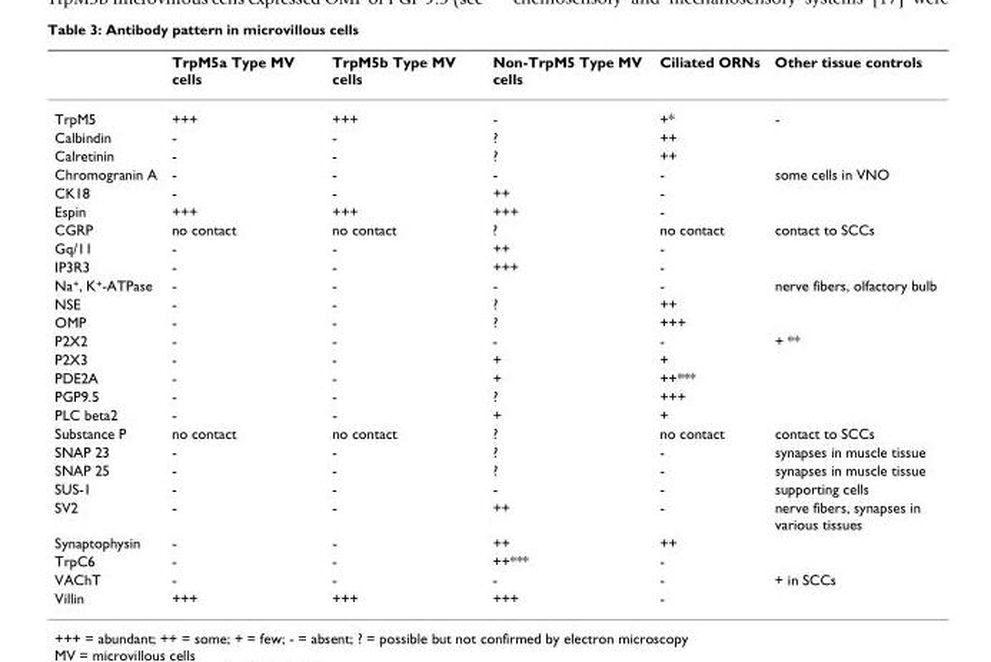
<table><thead><tr><td></td><td>TrpM5a Type MV cells</td><td>TrpM5b Type MV cells</td><td>Non-TrpM5 Type MV cells</td><td>Ciliated ORNs</td><td>Other tissue controls</td></tr></thead><tbody><tr><td>TrpM5</td><td>+++</td><td>+++</td><td>-</td><td>+*</td><td>-</td></tr><tr><td>Calbindin</td><td>-</td><td>-</td><td>?</td><td>++</td><td></td></tr><tr><td>Calretinin</td><td>-</td><td>-</td><td>?</td><td>++</td><td></td></tr><tr><td>Chromogranin A</td><td>-</td><td>-</td><td>-</td><td>-</td><td>some cells in VNO</td></tr><tr><td>CK18</td><td>-</td><td>-</td><td>++</td><td>-</td><td></td></tr><tr><td>Espin</td><td>+++</td><td>+++</td><td>+++</td><td>-</td><td></td></tr><tr><td>CGRP</td><td>no contact</td><td>no contact</td><td>?</td><td>no contact</td><td>contact to SCCs</td></tr><tr><td>Gq/11</td><td>-</td><td>-</td><td>++</td><td>-</td><td></td></tr><tr><td>IP3R3</td><td>-</td><td>-</td><td>+++</td><td>-</td><td></td></tr><tr><td>Na<sup>+</sup>, K<sup>+</sup>-ATPase</td><td>-</td><td>-</td><td>-</td><td>-</td><td>nerve fibers, olfactory bulb</td></tr><tr><td>NSE</td><td>-</td><td>-</td><td>?</td><td>++</td><td></td></tr><tr><td>OMP</td><td>-</td><td>-</td><td>?</td><td>+++</td><td></td></tr><tr><td>P2X2</td><td>-</td><td>-</td><td>-</td><td>-</td><td>+ **</td></tr><tr><td>P2X3</td><td>-</td><td>-</td><td>+</td><td>+</td><td></td></tr><tr><td>PDE2A</td><td>-</td><td>-</td><td>+</td><td>++***</td><td></td></tr><tr><td>PGP9.5</td><td>-</td><td>-</td><td>?</td><td>+++</td><td></td></tr><tr><td>PLC beta2</td><td>-</td><td>-</td><td>+</td><td>+</td><td></td></tr><tr><td>Substance P</td><td>no contact</td><td>no contact</td><td>?</td><td>no contact</td><td>contact to SCCs</td></tr><tr><td>SNAP 23</td><td>-</td><td>-</td><td>?</td><td>-</td><td>synapses in muscle tissue</td></tr><tr><td>SNAP 25</td><td>-</td><td>-</td><td>?</td><td>-</td><td>synapses in muscle tissue</td></tr><tr><td>SUS-1</td><td>-</td><td>-</td><td>-</td><td>-</td><td>supporting cells</td></tr><tr><td>SV2</td><td>-</td><td>-</td><td>++</td><td>-</td><td>nerve fibers, synapses in various tissues</td></tr><tr><td>Synaptophysin</td><td>-</td><td>-</td><td>++</td><td>++</td><td></td></tr><tr><td>TrpC6</td><td>-</td><td>-</td><td>++***</td><td>-</td><td></td></tr><tr><td>VAChT</td><td>-</td><td>-</td><td>-</td><td>-</td><td>+ in SCCs</td></tr><tr><td>Villin</td><td>+++</td><td>+++</td><td>+++</td><td>-</td><td></td></tr></tbody></table>